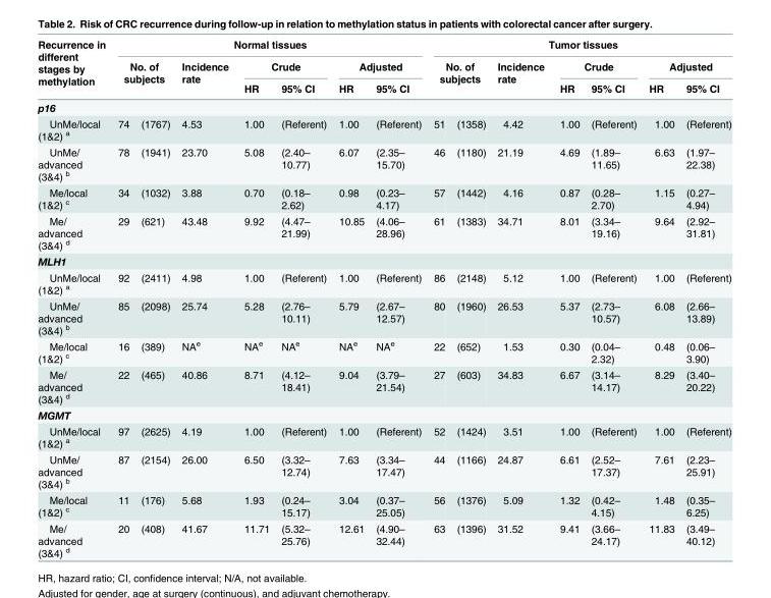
<table><thead><tr><td rowspan="3">Recurrence in different stages by methylation</td><td colspan="7">Normal tissues</td><td colspan="7">Tumor tissues</td></tr><tr><td rowspan="2" colspan="2">No. of subjects</td><td rowspan="2">Incidence rate</td><td colspan="2">Crude</td><td colspan="2">Adjusted</td><td rowspan="2" colspan="2">No. of subjects</td><td rowspan="2">Incidence rate</td><td colspan="2">Crude</td><td colspan="2">Adjusted</td></tr><tr><td>HR</td><td>95% CI</td><td>HR</td><td>95% CI</td><td>HR</td><td>95% CI</td><td>HR</td><td>95% CI</td></tr><tr><td colspan="15">p16</td></tr><tr><td>UnMe/local (1&amp;2) <sup>a</sup></td><td>74</td><td>(1767)</td><td>4.53</td><td>1.00</td><td>(Referent)</td><td>1.00</td><td>(Referent)</td><td>51</td><td>(1358)</td><td>4.42</td><td>1.00</td><td>(Referent)</td><td>1.00</td><td>(Referent)</td></tr></thead><tbody><tr><td>UnMe/ advanced (3&amp;4) <sup>b</sup></td><td>78</td><td>(1941)</td><td>23.70</td><td>5.08</td><td>(2.40– 10.77)</td><td>6.07</td><td>(2.35– 15.70)</td><td>46</td><td>(1180)</td><td>21.19</td><td>4.69</td><td>(1.89– 11.65)</td><td>6.63</td><td>(1.97– 22.38)</td></tr><tr><td>Me/local (1&amp;2) <sup>c</sup></td><td>34</td><td>(1032)</td><td>3.88</td><td>0.70</td><td>(0.18– 2.62)</td><td>0.98</td><td>(0.23– 4.17)</td><td>57</td><td>(1442)</td><td>4.16</td><td>0.87</td><td>(0.28– 2.70)</td><td>1.15</td><td>(0.27– 4.94)</td></tr><tr><td>Me/ advanced (3&amp;4) <sup>d</sup></td><td>29</td><td>(621)</td><td>43.48</td><td>9.92</td><td>(4.47– 21.99)</td><td>10.85</td><td>(4.06– 28.96)</td><td>61</td><td>(1383)</td><td>34.71</td><td>8.01</td><td>(3.34– 19.16)</td><td>9.64</td><td>(2.92– 31.81)</td></tr><tr><td colspan="15">MLH1</td></tr><tr><td>UnMe/local (1&amp;2) <sup>a</sup></td><td>92</td><td>(2411)</td><td>4.98</td><td>1.00</td><td>(Referent)</td><td>1.00</td><td>(Referent)</td><td>86</td><td>(2148)</td><td>5.12</td><td>1.00</td><td>(Referent)</td><td>1.00</td><td>(Referent)</td></tr><tr><td>UnMe/ advanced (3&amp;4) <sup>b</sup></td><td>85</td><td>(2098)</td><td>25.74</td><td>5.28</td><td>(2.76– 10.11)</td><td>5.79</td><td>(2.67– 12.57)</td><td>80</td><td>(1960)</td><td>26.53</td><td>5.37</td><td>(2.73– 10.57)</td><td>6.08</td><td>(2.66– 13.89)</td></tr><tr><td>Me/local (1&amp;2) <sup>c</sup></td><td>16</td><td>(389)</td><td>NA<sup>e</sup></td><td>NA<sup>e</sup></td><td>NA<sup>e</sup></td><td>NA<sup>e</sup></td><td>NA<sup>e</sup></td><td>22</td><td>(652)</td><td>1.53</td><td>0.30</td><td>(0.04– 2.32)</td><td>0.48</td><td>(0.06– 3.90)</td></tr><tr><td>Me/ advanced (3&amp;4) <sup>d</sup></td><td>22</td><td>(465)</td><td>40.86</td><td>8.71</td><td>(4.12– 18.41)</td><td>9.04</td><td>(3.79– 21.54)</td><td>27</td><td>(603)</td><td>34.83</td><td>6.67</td><td>(3.14– 14.17)</td><td>8.29</td><td>(3.40– 20.22)</td></tr><tr><td colspan="15">MGMT</td></tr><tr><td>UnMe/local (1&amp;2) <sup>a</sup></td><td>97</td><td>(2625)</td><td>4.19</td><td>1.00</td><td>(Referent)</td><td>1.00</td><td>(Referent)</td><td>52</td><td>(1424)</td><td>3.51</td><td>1.00</td><td>(Referent)</td><td>1.00</td><td>(Referent)</td></tr><tr><td>UnMe/ advanced (3&amp;4) <sup>b</sup></td><td>87</td><td>(2154)</td><td>26.00</td><td>6.50</td><td>(3.32– 12.74)</td><td>7.63</td><td>(3.34– 17.47)</td><td>44</td><td>(1166)</td><td>24.87</td><td>6.61</td><td>(2.52– 17.37)</td><td>7.61</td><td>(2.23– 25.91)</td></tr><tr><td>Me/local (1&amp;2) <sup>c</sup></td><td>11</td><td>(176)</td><td>5.68</td><td>1.93</td><td>(0.24– 15.17)</td><td>3.04</td><td>(0.37– 25.05)</td><td>56</td><td>(1376)</td><td>5.09</td><td>1.32</td><td>(0.42– 4.15)</td><td>1.48</td><td>(0.35– 6.25)</td></tr><tr><td>Me/ advanced (3&amp;4) <sup>d</sup></td><td>20</td><td>(408)</td><td>41.67</td><td>11.71</td><td>(5.32– 25.76)</td><td>12.61</td><td>(4.90– 32.44)</td><td>63</td><td>(1396)</td><td>31.52</td><td>9.41</td><td>(3.66– 24.17)</td><td>11.83</td><td>(3.49– 40.12)</td></tr></tbody></table>